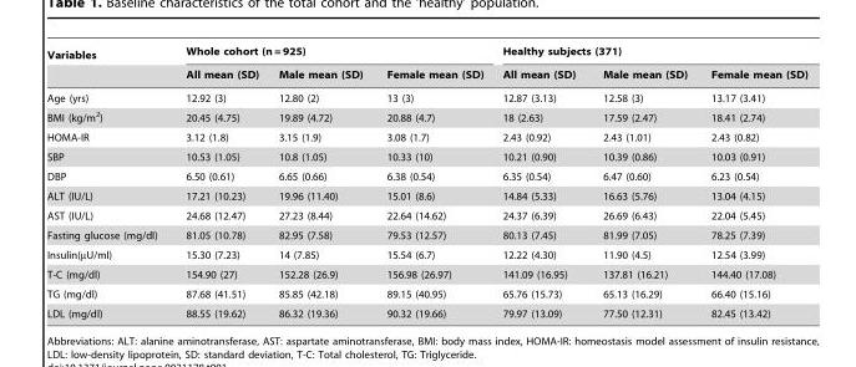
<table><thead><tr><td rowspan="2">Variables</td><td colspan="3">Whole cohort (n = 925)</td><td colspan="3">Healthy subjects (371)</td></tr><tr><td>All mean (SD)</td><td>Male mean (SD)</td><td>Female mean (SD)</td><td>All mean (SD)</td><td>Male mean (SD)</td><td>Female mean (SD)</td></tr></thead><tbody><tr><td>Age (yrs)</td><td>12.92 (3)</td><td>12.80 (2)</td><td>13 (3)</td><td>12.87 (3.13)</td><td>12.58 (3)</td><td>13.17 (3.41)</td></tr><tr><td>BMI (kg/m<sup>2</sup>)</td><td>20.45 (4.75)</td><td>19.89 (4.72)</td><td>20.88 (4.7)</td><td>18 (2.63)</td><td>17.59 (2.47)</td><td>18.41 (2.74)</td></tr><tr><td>HOMA-IR</td><td>3.12 (1.8)</td><td>3.15 (1.9)</td><td>3.08 (1.7)</td><td>2.43 (0.92)</td><td>2.43 (1.01)</td><td>2.43 (0.82)</td></tr><tr><td>SBP</td><td>10.53 (1.05)</td><td>10.8 (1.05)</td><td>10.33 (10)</td><td>10.21 (0.90)</td><td>10.39 (0.86)</td><td>10.03 (0.91)</td></tr><tr><td>DBP</td><td>6.50 (0.61)</td><td>6.65 (0.66)</td><td>6.38 (0.54)</td><td>6.35 (0.54)</td><td>6.47 (0.60)</td><td>6.23 (0.54)</td></tr><tr><td>ALT (IU/L)</td><td>17.21 (10.23)</td><td>19.96 (11.40)</td><td>15.01 (8.6)</td><td>14.84 (5.33)</td><td>16.63 (5.76)</td><td>13.04 (4.15)</td></tr><tr><td>AST (IU/L)</td><td>24.68 (12.47)</td><td>27.23 (8.44)</td><td>22.64 (14.62)</td><td>24.37 (6.39)</td><td>26.69 (6.43)</td><td>22.04 (5.45)</td></tr><tr><td>Fasting glucose (mg/dl)</td><td>81.05 (10.78)</td><td>82.95 (7.58)</td><td>79.53 (12.57)</td><td>80.13 (7.45)</td><td>81.99 (7.05)</td><td>78.25 (7.39)</td></tr><tr><td>Insulin(µU/ml)</td><td>15.30 (7.23)</td><td>14 (7.85)</td><td>15.54 (6.7)</td><td>12.22 (4.30)</td><td>11.90 (4.5)</td><td>12.54 (3.99)</td></tr><tr><td>T-C (mg/dl)</td><td>154.90 (27)</td><td>152.28 (26.9)</td><td>156.98 (26.97)</td><td>141.09 (16.95)</td><td>137.81 (16.21)</td><td>144.40 (17.08)</td></tr><tr><td>TG (mg/dl)</td><td>87.68 (41.51)</td><td>85.85 (42.18)</td><td>89.15 (40.95)</td><td>65.76 (15.73)</td><td>65.13 (16.29)</td><td>66.40 (15.16)</td></tr><tr><td>LDL (mg/dl)</td><td>88.55 (19.62)</td><td>86.32 (19.36)</td><td>90.32 (19.66)</td><td>79.97 (13.09)</td><td>77.50 (12.31)</td><td>82.45 (13.42)</td></tr></tbody></table>